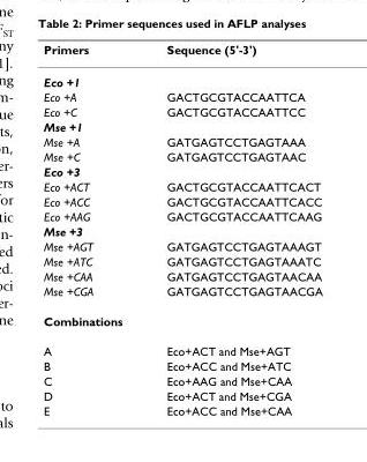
<table><thead><tr><td>Primers</td><td>Sequence (5&#x27;-3&#x27;)</td></tr></thead><tbody><tr><td colspan="2">Eco +1</td></tr><tr><td>Eco +A</td><td>GACTGCGTACCAATTCA</td></tr><tr><td>Eco +C</td><td>GACTGCGTACCAATTCC</td></tr><tr><td colspan="2">Mse +1</td></tr><tr><td>Mse +A</td><td>GATGAGTCCTGAGTAAA</td></tr><tr><td>Mse +C</td><td>GATGAGTCCTGAGTAAC</td></tr><tr><td colspan="2">Eco +3</td></tr><tr><td>Eco +ACT</td><td>GACTGCGTACCAATTCACT</td></tr><tr><td>Eco +ACC</td><td>GACTGCGTACCAATTCACC</td></tr><tr><td>Eco +AAG</td><td>GACTGCGTACCAATTCAAG</td></tr><tr><td colspan="2">Mse +3</td></tr><tr><td>Mse +AGT</td><td>GATGAGTCCTGAGTAAAGT</td></tr><tr><td>Mse +ATC</td><td>GATGAGTCCTGAGTAAATC</td></tr><tr><td>Mse +CAA</td><td>GATGAGTCCTGAGTAACAA</td></tr><tr><td>Mse +CGA</td><td>GATGAGTCCTGAGTAACGA</td></tr><tr><td colspan="2">Combinations</td></tr><tr><td>A</td><td>Eco+ACT and Mse+AGT</td></tr><tr><td>B</td><td>Eco+ACC and Mse+ATC</td></tr><tr><td>C</td><td>Eco+AAG and Mse+CAA</td></tr><tr><td>D</td><td>Eco+ACT and Mse+CGA</td></tr><tr><td>E</td><td>Eco+ACC and Mse+CAA</td></tr></tbody></table>